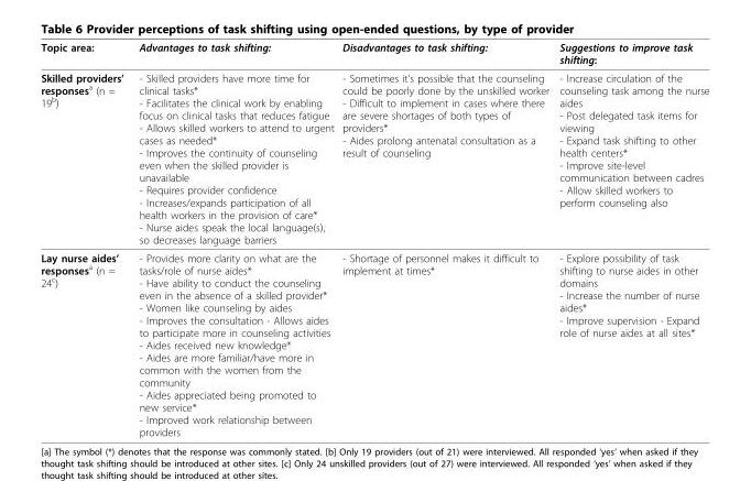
<table><thead><tr><td>Topic area:</td><td>Advantages to task shifting:</td><td>Disadvantages to task shifting:</td><td>Suggestions to improve task shifting:</td></tr></thead><tbody><tr><td>Skilled providers’ responses<sup>a</sup> (n = 19<sup>b</sup>)</td><td>- Skilled providers have more time for clinical tasks* - Facilitates the clinical work by enabling focus on clinical tasks that reduces fatigue - Allows skilled workers to attend to urgent cases as needed* - Improves the continuity of counseling even when the skilled provider is unavailable - Requires provider confidence - Increases/expands participation of all health workers in the provision of care* - Nurse aides speak the local language(s), so decreases language barriers</td><td>- Sometimes it’s possible that the counseling could be poorly done by the unskilled worker - Difficult to implement in cases where there are severe shortages of both types of providers* - Aides prolong antenatal consultation as a result of counseling</td><td>- Increase circulation of the counseling task among the nurse aides - Post delegated task items for viewing - Expand task shifting to other health centers* - Improve site-level communication between cadres - Allow skilled workers to perform counseling also</td></tr><tr><td>Lay nurse aides’ responses<sup>a</sup> (n = 24<sup>c</sup>)</td><td>- Provides more clarity on what are the tasks/role of nurse aides* - Have ability to conduct the counseling even in the absence of a skilled provider* - Women like counseling by aides - Improves the consultation - Allows aides to participate more in counseling activities - Aides received new knowledge* - Aides are more familiar/have more in common with the women from the community - Aides appreciated being promoted to new service* - Improved work relationship between providers</td><td>- Shortage of personnel makes it difficult to implement at times*</td><td>- Explore possibility of task shifting to nurse aides in other domains - Increase the number of nurse aides* - Improve supervision - Expand role of nurse aides at all sites*</td></tr></tbody></table>